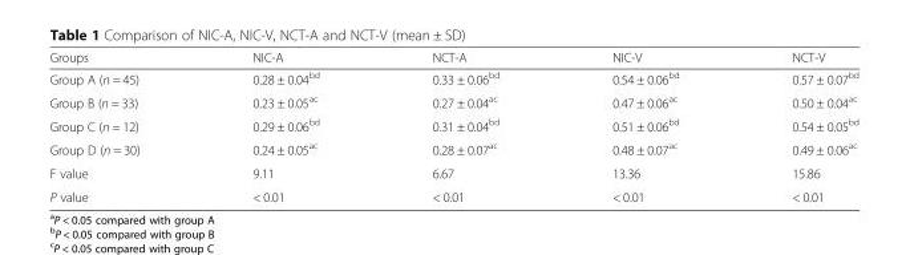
<table><thead><tr><td>Groups</td><td>NIC-A</td><td>NCT-A</td><td>NIC-V</td><td>NCT-V</td></tr></thead><tbody><tr><td>Group A (n = 45)</td><td>0.28 ± 0.04<sup>bd</sup></td><td>0.33 ± 0.06<sup>bd</sup></td><td>0.54 ± 0.06<sup>bd</sup></td><td>0.57 ± 0.07<sup>bd</sup></td></tr><tr><td>Group B (n = 33)</td><td>0.23 ± 0.05<sup>ac</sup></td><td>0.27 ± 0.04<sup>ac</sup></td><td>0.47 ± 0.06<sup>ac</sup></td><td>0.50 ± 0.04<sup>ac</sup></td></tr><tr><td>Group C (n = 12)</td><td>0.29 ± 0.06<sup>bd</sup></td><td>0.31 ± 0.04<sup>bd</sup></td><td>0.51 ± 0.06<sup>bd</sup></td><td>0.54 ± 0.05<sup>bd</sup></td></tr><tr><td>Group D (n = 30)</td><td>0.24 ± 0.05<sup>ac</sup></td><td>0.28 ± 0.07<sup>ac</sup></td><td>0.48 ± 0.07<sup>ac</sup></td><td>0.49 ± 0.06<sup>ac</sup></td></tr><tr><td>F value</td><td>9.11</td><td>6.67</td><td>13.36</td><td>15.86</td></tr><tr><td>P value</td><td>&lt; 0.01</td><td>&lt; 0.01</td><td>&lt; 0.01</td><td>&lt; 0.01</td></tr></tbody></table>